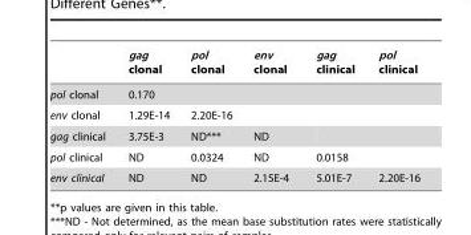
<table><thead><tr><td></td><td>gag clonal</td><td>pol clonal</td><td>env clonal</td><td>gag clinical</td><td>pol clinical</td></tr></thead><tbody><tr><td>pol clonal</td><td>0.170</td><td colspan="4"></td></tr><tr><td>env clonal</td><td>1.29E-14</td><td>2.20E-16</td><td colspan="3"></td></tr><tr><td>gag clinical</td><td>3.75E-3</td><td>ND***</td><td>ND</td><td colspan="2"></td></tr><tr><td>pol clinical</td><td>ND</td><td>0.0324</td><td>ND</td><td>0.0158</td><td></td></tr><tr><td>env clinical</td><td>ND</td><td>ND</td><td>2.15E-4</td><td>5.01E-7</td><td>2.20E-16</td></tr></tbody></table>